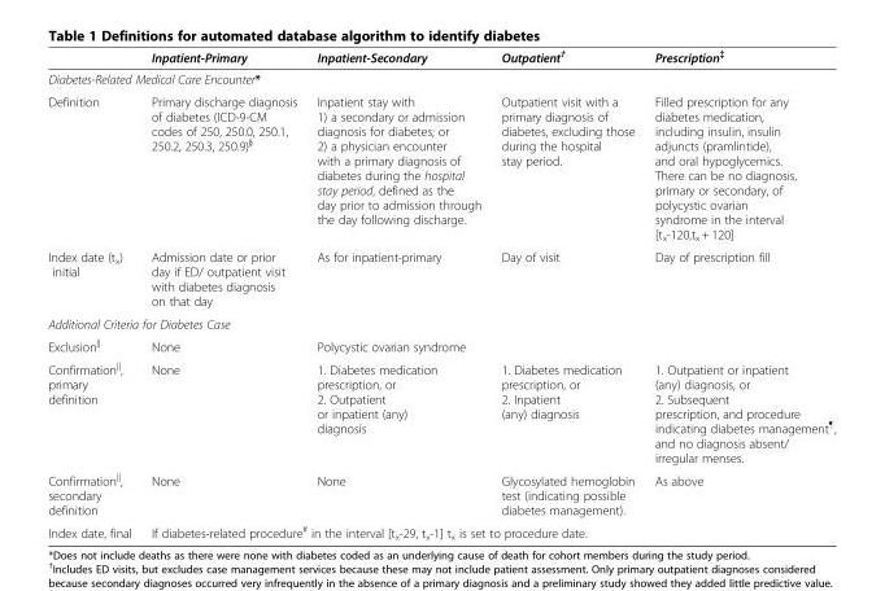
<table><thead><tr><td></td><td>Inpatient-Primary</td><td>Inpatient-Secondary</td><td>Outpatient<sup>†</sup></td><td>Prescription{{</td></tr></thead><tbody><tr><td colspan="5">Diabetes-Related Medical Care Encounter*</td></tr><tr><td>Definition</td><td>Primary discharge diagnosis of diabetes (ICD-9-CM codes of 250, 250.0, 250.1, 250.2, 250.3, 250.9)<sup>§</sup></td><td>Inpatient stay with 1) a secondary or admission diagnosis for diabetes; or 2) a physician encounter with a primary diagnosis of diabetes during the hospital stay period, defined as the day prior to admission through the day following discharge.</td><td>Outpatient visit with a primary diagnosis of diabetes, excluding those during the hospital stay period.</td><td>Filled prescription for any diabetes medication, including insulin, insulin adjuncts (pramlintide), and oral hypoglycemics. There can be no diagnosis, primary or secondary, of polycystic ovarian syndrome in the interval [t<sub>x</sub>-120,t<sub>x</sub> + 120]</td></tr><tr><td>Index date (t<sub>x</sub>) initial</td><td>Admission date or prior day if ED/ outpatient visit with diabetes diagnosis on that day</td><td>As for inpatient-primary</td><td>Day of visit</td><td>Day of prescription fill</td></tr><tr><td colspan="5">Additional Criteria for Diabetes Case</td></tr><tr><td>Exclusion<sup>||</sup></td><td>None</td><td>Polycystic ovarian syndrome</td><td></td><td></td></tr><tr><td>Confirmation<sup>||</sup>, primary definition</td><td>None</td><td>1. Diabetes medication prescription, or 2. Outpatient or inpatient (any) diagnosis</td><td>1. Diabetes medication prescription, or 2. Inpatient (any) diagnosis</td><td>1. Outpatient or inpatient (any) diagnosis, or 2. Subsequent prescription, and procedure indicating diabetes management<sup>¶</sup>, and no diagnosis absent/ irregular menses.</td></tr><tr><td>Confirmation<sup>||</sup>, secondary definition</td><td>None</td><td>None</td><td>Glycosylated hemoglobin test (indicating possible diabetes management).</td><td>As above</td></tr><tr><td>Index date, final</td><td colspan="4">If diabetes-related procedure<sup>#</sup> in the interval [t<sub>x</sub>-29, t<sub>x</sub>-1] t<sub>x</sub> is set to procedure date.</td></tr></tbody></table>